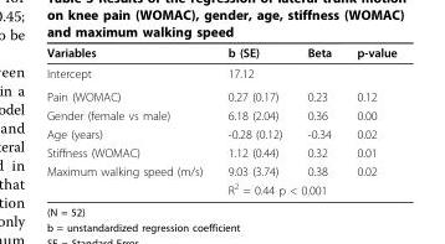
<table><thead><tr><td>Variables</td><td>b (SE)</td><td>Beta</td><td>p-value</td></tr></thead><tbody><tr><td>Intercept</td><td>17.12</td><td colspan="2"></td></tr><tr><td>Pain (WOMAC)</td><td>0.27 (0.17)</td><td>0.23</td><td>0.12</td></tr><tr><td>Gender (female vs male)</td><td>6.18 (2.04)</td><td>0.36</td><td>0.00</td></tr><tr><td>Age (years)</td><td>-0.28 (0.12)</td><td>-0.34</td><td>0.02</td></tr><tr><td>Stiffness (WOMAC)</td><td>1.12 (0.44)</td><td>0.32</td><td>0.01</td></tr><tr><td rowspan="2">Maximum walking speed (m/s)</td><td>9.03 (3.74)</td><td>0.38</td><td>0.02</td></tr><tr><td colspan="3">R<sup>2</sup> = 0.44 p &lt; 0.001</td></tr></tbody></table>